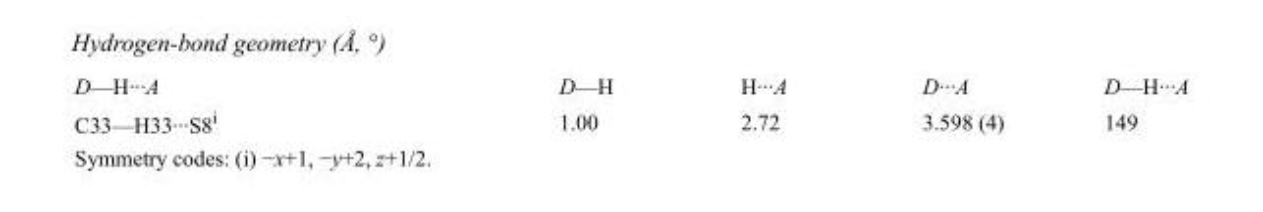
<table><tbody><tr><td>D—H···A</td><td>D—H</td><td>H···A</td><td>D···A</td><td>D—H···A</td></tr><tr><td>C33—H33···S8<sup>i</sup></td><td>1.00</td><td>2.72</td><td>3.598 (4)</td><td>149</td></tr></tbody></table>